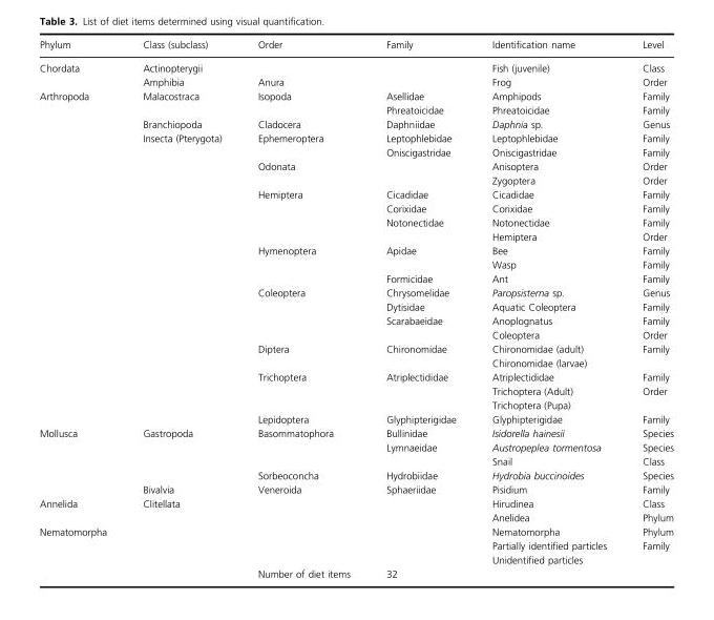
<table><thead><tr><td>Phylum</td><td>Class (subclass)</td><td>Order</td><td>Family</td><td>Identification name</td><td>Level</td></tr></thead><tbody><tr><td rowspan="2">Chordata</td><td>Actinopterygii</td><td></td><td></td><td>Fish (juvenile)</td><td>Class</td></tr><tr><td>Amphibia</td><td>Anura</td><td></td><td>Frog</td><td>Order</td></tr><tr><td rowspan="24">Arthropoda</td><td rowspan="2">Malacostraca</td><td rowspan="2">Isopoda</td><td>Asellidae</td><td>Amphipods</td><td>Family</td></tr><tr><td>Phreatoicidae</td><td>Phreatoicidae</td><td>Family</td></tr><tr><td>Branchiopoda</td><td>Cladocera</td><td>Daphniidae</td><td>Daphnia sp.</td><td>Genus</td></tr><tr><td rowspan="21">Insecta (Pterygota)</td><td rowspan="2">Ephemeroptera</td><td>Leptophlebidae</td><td>Leptophlebidae</td><td>Family</td></tr><tr><td rowspan="3">Oniscigastridae</td><td>Oniscigastridae</td><td>Family</td></tr><tr><td rowspan="2">Odonata</td><td>Anisoptera</td><td>Order</td></tr><tr><td>Zygoptera</td><td>Order</td></tr><tr><td rowspan="4">Hemiptera</td><td>Cicadidae</td><td>Cicadidae</td><td>Family</td></tr><tr><td>Corixidae</td><td>Corixidae</td><td>Family</td></tr><tr><td rowspan="2">Notonectidae</td><td>Notonectidae</td><td>Family</td></tr><tr><td>Hemiptera</td><td>Order</td></tr><tr><td rowspan="3">Hymenoptera</td><td rowspan="2">Apidae</td><td>Bee</td><td>Family</td></tr><tr><td>Wasp</td><td>Family</td></tr><tr><td>Formicidae</td><td>Ant</td><td>Family</td></tr><tr><td rowspan="4">Coleoptera</td><td>Chrysomelidae</td><td>Paropsisterna sp.</td><td>Genus</td></tr><tr><td>Dytisidae</td><td>Aquatic Coleoptera</td><td>Family</td></tr><tr><td rowspan="2">Scarabaeidae</td><td>Anoplognatus</td><td>Family</td></tr><tr><td>Coleoptera</td><td>Order</td></tr><tr><td rowspan="2">Diptera</td><td rowspan="2">Chironomidae</td><td>Chironomidae (adult)</td><td>Family</td></tr><tr><td>Chironomidae (larvae)</td><td></td></tr><tr><td rowspan="3">Trichoptera</td><td rowspan="3">Atriplectididae</td><td>Atriplectididae</td><td>Family</td></tr><tr><td>Trichoptera (Adult)</td><td>Order</td></tr><tr><td>Trichoptera (Pupa)</td><td></td></tr><tr><td>Lepidoptera</td><td>Glyphipterigidae</td><td>Glyphipterigidae</td><td>Family</td></tr><tr><td rowspan="5">Mollusca</td><td rowspan="4">Gastropoda</td><td rowspan="3">Basommatophora</td><td>Bullinidae</td><td>Isidorella hainesii</td><td>Species</td></tr><tr><td rowspan="2">Lymnaeidae</td><td>Austropeplea tormentosa</td><td>Species</td></tr><tr><td>Snail</td><td>Class</td></tr><tr><td>Sorbeoconcha</td><td>Hydrobiidae</td><td>Hydrobia buccinoides</td><td>Species</td></tr><tr><td>Bivalvia</td><td rowspan="6">Veneroida</td><td rowspan="6">Sphaeriidae</td><td>Pisidium</td><td>Family</td></tr><tr><td rowspan="2">Annelida</td><td rowspan="6">Clitellata</td><td>Hirudinea</td><td>Class</td></tr><tr><td>Anelidea</td><td>Phylum</td></tr><tr><td rowspan="4">Nematomorpha</td><td>Nematomorpha</td><td>Phylum</td></tr><tr><td>Partially identified particles</td><td>Family</td></tr><tr><td>Unidentified particles</td><td></td></tr><tr><td>Number of diet items</td><td>32</td><td></td><td></td></tr></tbody></table>